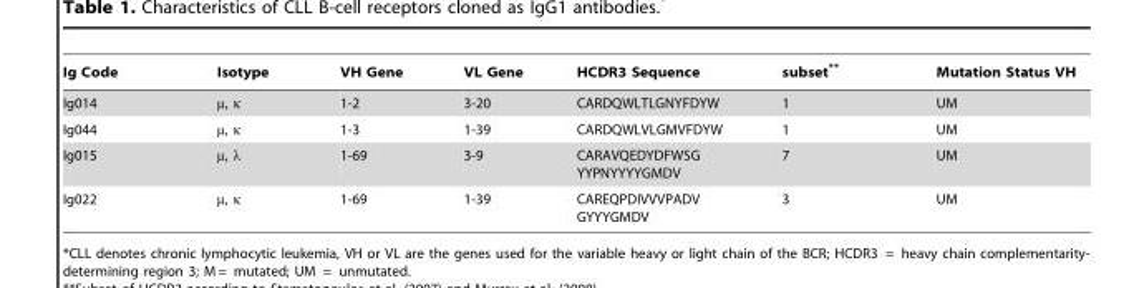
<table><thead><tr><td>Ig Code</td><td>Isotype</td><td>VH Gene</td><td>VL Gene</td><td>HCDR3 Sequence</td><td>subset**</td><td>Mutation Status VH</td></tr></thead><tbody><tr><td>Ig014</td><td>µ, κ</td><td>1-2</td><td>3-20</td><td>CARDQWLTLGNYFDYW</td><td>1</td><td>UM</td></tr><tr><td>Ig044</td><td>µ, κ</td><td>1-3</td><td>1-39</td><td>CARDQWLVLGMVFDYW</td><td>1</td><td>UM</td></tr><tr><td>Ig015</td><td>µ, λ</td><td>1-69</td><td>3-9</td><td>CARAVQEDYDFWSG YYPNYYYYGMDV</td><td>7</td><td>UM</td></tr><tr><td>Ig022</td><td>µ, κ</td><td>1-69</td><td>1-39</td><td>CAREQPDIVVVPADV GYYYGMDV</td><td>3</td><td>UM</td></tr></tbody></table>